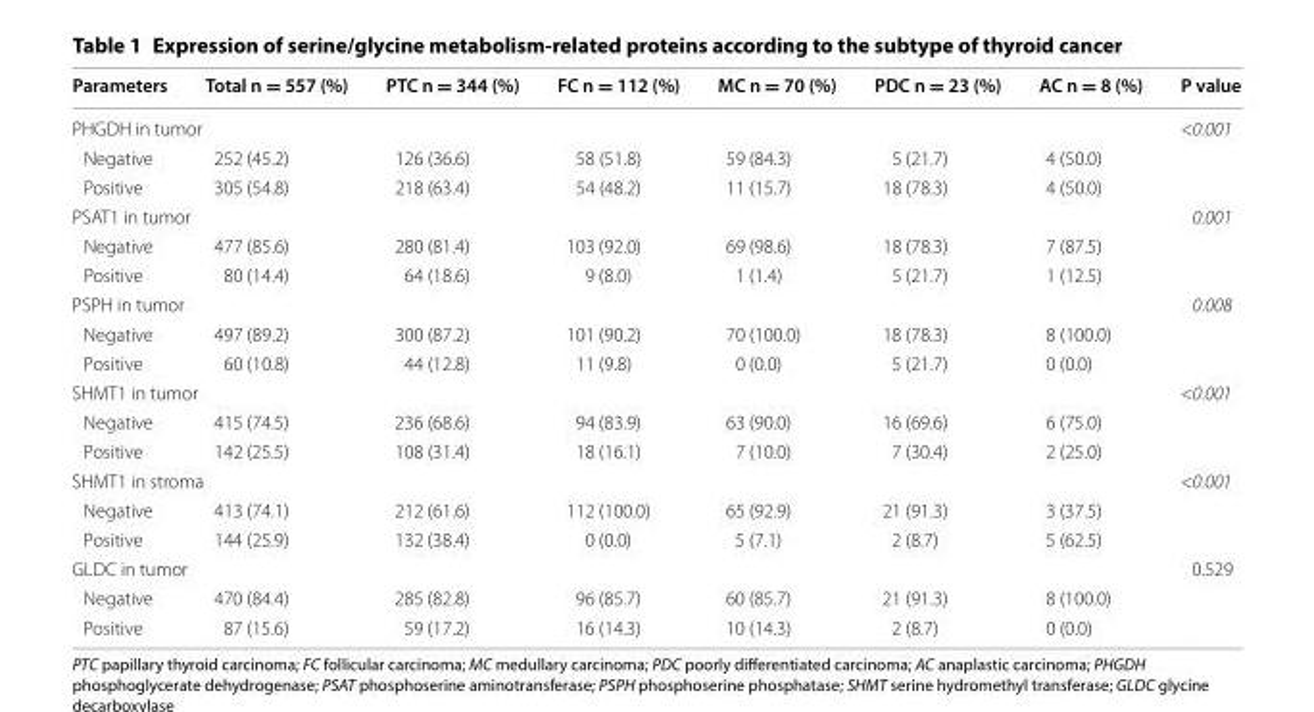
<table><thead><tr><td>Parameters</td><td>Total n = 557 (%)</td><td>PTC n = 344 (%)</td><td>FC n = 112 (%)</td><td>MC n = 70 (%)</td><td>PDC n = 23 (%)</td><td>AC n = 8 (%)</td><td>P value</td></tr></thead><tbody><tr><td colspan="7">PHGDH in tumor</td><td>&lt;0.001</td></tr><tr><td>Negative</td><td>252 (45.2)</td><td>126 (36.6)</td><td>58 (51.8)</td><td>59 (84.3)</td><td>5 (21.7)</td><td>4 (50.0)</td><td></td></tr><tr><td>Positive</td><td>305 (54.8)</td><td>218 (63.4)</td><td>54 (48.2)</td><td>11 (15.7)</td><td>18 (78.3)</td><td>4 (50.0)</td><td></td></tr><tr><td colspan="7">PSAT1 in tumor</td><td>0.001</td></tr><tr><td>Negative</td><td>477 (85.6)</td><td>280 (81.4)</td><td>103 (92.0)</td><td>69 (98.6)</td><td>18 (78.3)</td><td>7 (87.5)</td><td></td></tr><tr><td>Positive</td><td>80 (14.4)</td><td>64 (18.6)</td><td>9 (8.0)</td><td>1 (1.4)</td><td>5 (21.7)</td><td>1 (12.5)</td><td></td></tr><tr><td colspan="7">PSPH in tumor</td><td>0.008</td></tr><tr><td>Negative</td><td>497 (89.2)</td><td>300 (87.2)</td><td>101 (90.2)</td><td>70 (100.0)</td><td>18 (78.3)</td><td>8 (100.0)</td><td></td></tr><tr><td>Positive</td><td>60 (10.8)</td><td>44 (12.8)</td><td>11 (9.8)</td><td>0 (0.0)</td><td>5 (21.7)</td><td>0 (0.0)</td><td></td></tr><tr><td colspan="7">SHMT1 in tumor</td><td>&lt;0.001</td></tr><tr><td>Negative</td><td>415 (74.5)</td><td>236 (68.6)</td><td>94 (83.9)</td><td>63 (90.0)</td><td>16 (69.6)</td><td>6 (75.0)</td><td></td></tr><tr><td>Positive</td><td>142 (25.5)</td><td>108 (31.4)</td><td>18 (16.1)</td><td>7 (10.0)</td><td>7 (30.4)</td><td>2 (25.0)</td><td></td></tr><tr><td colspan="7">SHMT1 in stroma</td><td>&lt;0.001</td></tr><tr><td>Negative</td><td>413 (74.1)</td><td>212 (61.6)</td><td>112 (100.0)</td><td>65 (92.9)</td><td>21 (91.3)</td><td>3 (37.5)</td><td></td></tr><tr><td>Positive</td><td>144 (25.9)</td><td>132 (38.4)</td><td>0 (0.0)</td><td>5 (7.1)</td><td>2 (8.7)</td><td>5 (62.5)</td><td></td></tr><tr><td colspan="7">GLDC in tumor</td><td>0.529</td></tr><tr><td>Negative</td><td>470 (84.4)</td><td>285 (82.8)</td><td>96 (85.7)</td><td>60 (85.7)</td><td>21 (91.3)</td><td>8 (100.0)</td><td></td></tr><tr><td>Positive</td><td>87 (15.6)</td><td>59 (17.2)</td><td>16 (14.3)</td><td>10 (14.3)</td><td>2 (8.7)</td><td>0 (0.0)</td><td></td></tr></tbody></table>